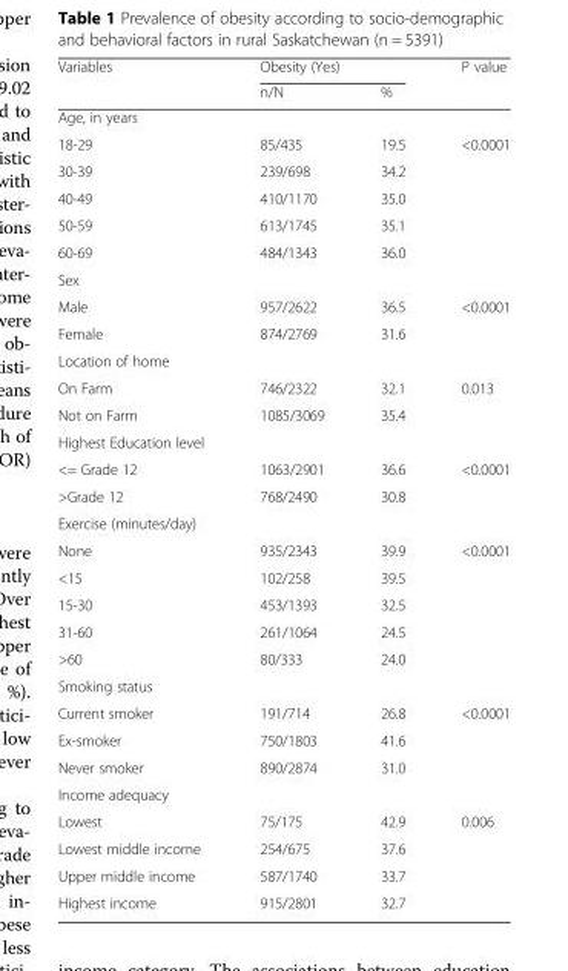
<table><thead><tr><td rowspan="2">Variables</td><td colspan="2">Obesity (Yes)</td><td rowspan="2">P value</td></tr><tr><td>n/N</td><td>%</td></tr></thead><tbody><tr><td colspan="4">Age, in years</td></tr><tr><td>18-29</td><td>85/435</td><td>19.5</td><td>&lt;0.0001</td></tr><tr><td>30-39</td><td>239/698</td><td>34.2</td><td></td></tr><tr><td>40-49</td><td>410/1170</td><td>35.0</td><td></td></tr><tr><td>50-59</td><td>613/1745</td><td>35.1</td><td></td></tr><tr><td>60-69</td><td>484/1343</td><td>36.0</td><td></td></tr><tr><td colspan="4">Sex</td></tr><tr><td>Male</td><td>957/2622</td><td>36.5</td><td>&lt;0.0001</td></tr><tr><td>Female</td><td>874/2769</td><td>31.6</td><td></td></tr><tr><td colspan="4">Location of home</td></tr><tr><td>On Farm</td><td>746/2322</td><td>32.1</td><td>0.013</td></tr><tr><td>Not on Farm</td><td>1085/3069</td><td>35.4</td><td></td></tr><tr><td colspan="4">Highest Education level</td></tr><tr><td>&lt;= Grade 12</td><td>1063/2901</td><td>36.6</td><td>&lt;0.0001</td></tr><tr><td>&gt;Grade 12</td><td>768/2490</td><td>30.8</td><td></td></tr><tr><td colspan="4">Exercise (minutes/day)</td></tr><tr><td>None</td><td>935/2343</td><td>39.9</td><td>&lt;0.0001</td></tr><tr><td>&lt;15</td><td>102/258</td><td>39.5</td><td></td></tr><tr><td>15-30</td><td>453/1393</td><td>32.5</td><td></td></tr><tr><td>31-60</td><td>261/1064</td><td>24.5</td><td></td></tr><tr><td>&gt;60</td><td>80/333</td><td>24.0</td><td></td></tr><tr><td colspan="4">Smoking status</td></tr><tr><td>Current smoker</td><td>191/714</td><td>26.8</td><td>&lt;0.0001</td></tr><tr><td>Ex-smoker</td><td>750/1803</td><td>41.6</td><td></td></tr><tr><td>Never smoker</td><td>890/2874</td><td>31.0</td><td></td></tr><tr><td colspan="4">Income adequacy</td></tr><tr><td>Lowest</td><td>75/175</td><td>42.9</td><td>0.006</td></tr><tr><td>Lowest middle income</td><td>254/675</td><td>37.6</td><td></td></tr><tr><td>Upper middle income</td><td>587/1740</td><td>33.7</td><td></td></tr><tr><td>Highest income</td><td>915/2801</td><td>32.7</td><td></td></tr></tbody></table>